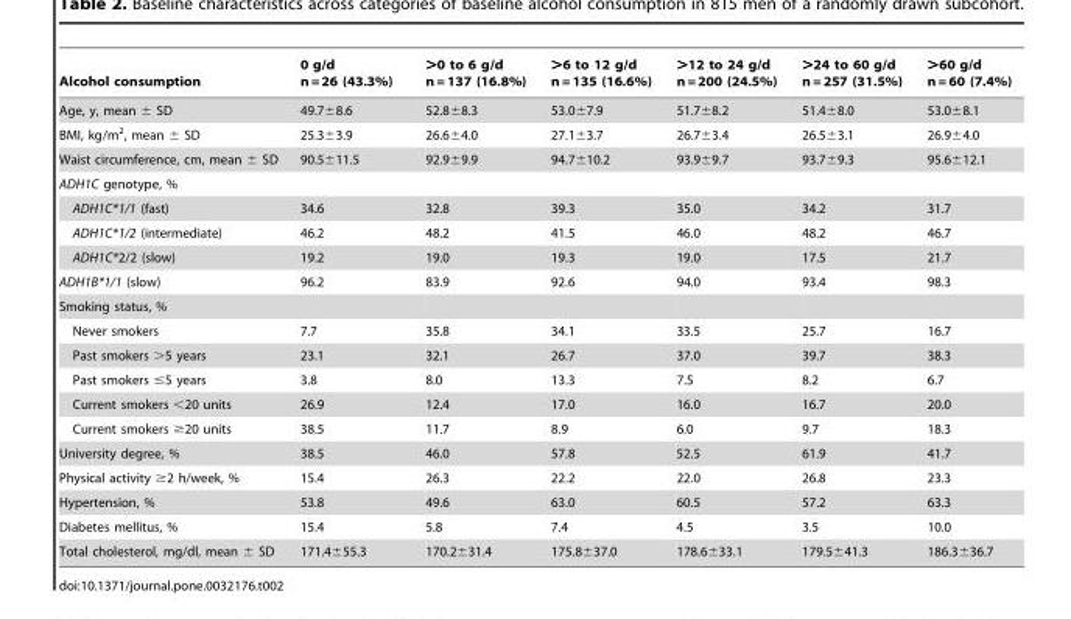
<table><thead><tr><td>Alcohol consumption</td><td>0 g/d n = 26 (43.3%)</td><td>&gt;0 to 6 g/d n = 137 (16.8%)</td><td>&gt;6 to 12 g/d n = 135 (16.6%)</td><td>&gt;12 to 24 g/d n = 200 (24.5%)</td><td>&gt;24 to 60 g/d n = 257 (31.5%)</td><td>&gt;60 g/d n = 60 (7.4%)</td></tr></thead><tbody><tr><td>Age, y, mean ± SD</td><td>49.7±8.6</td><td>52.8±8.3</td><td>53.0±7.9</td><td>51.7±8.2</td><td>51.4±8.0</td><td>53.0±8.1</td></tr><tr><td>BMI, kg/m<sup>2</sup>, mean ± SD</td><td>25.3±3.9</td><td>26.6±4.0</td><td>27.1±3.7</td><td>26.7±3.4</td><td>26.5±3.1</td><td>26.9±4.0</td></tr><tr><td>Waist circumference, cm, mean ± SD</td><td>90.5±11.5</td><td>92.9±9.9</td><td>94.7±10.2</td><td>93.9±9.7</td><td>93.7±9.3</td><td>95.6±12.1</td></tr><tr><td colspan="7">ADH1C genotype, %</td></tr><tr><td>ADH1C*1/1 (fast)</td><td>34.6</td><td>32.8</td><td>39.3</td><td>35.0</td><td>34.2</td><td>31.7</td></tr><tr><td>ADH1C*1/2 (intermediate)</td><td>46.2</td><td>48.2</td><td>41.5</td><td>46.0</td><td>48.2</td><td>46.7</td></tr><tr><td>ADH1C*2/2 (slow)</td><td>19.2</td><td>19.0</td><td>19.3</td><td>19.0</td><td>17.5</td><td>21.7</td></tr><tr><td>ADH1B*1/1 (slow)</td><td>96.2</td><td>83.9</td><td>92.6</td><td>94.0</td><td>93.4</td><td>98.3</td></tr><tr><td colspan="7">Smoking status, %</td></tr><tr><td>Never smokers</td><td>7.7</td><td>35.8</td><td>34.1</td><td>33.5</td><td>25.7</td><td>16.7</td></tr><tr><td>Past smokers &gt;5 years</td><td>23.1</td><td>32.1</td><td>26.7</td><td>37.0</td><td>39.7</td><td>38.3</td></tr><tr><td>Past smokers ≤5 years</td><td>3.8</td><td>8.0</td><td>13.3</td><td>7.5</td><td>8.2</td><td>6.7</td></tr><tr><td>Current smokers &lt;20 units</td><td>26.9</td><td>12.4</td><td>17.0</td><td>16.0</td><td>16.7</td><td>20.0</td></tr><tr><td>Current smokers ≥20 units</td><td>38.5</td><td>11.7</td><td>8.9</td><td>6.0</td><td>9.7</td><td>18.3</td></tr><tr><td>University degree, %</td><td>38.5</td><td>46.0</td><td>57.8</td><td>52.5</td><td>61.9</td><td>41.7</td></tr><tr><td>Physical activity ≥2 h/week, %</td><td>15.4</td><td>26.3</td><td>22.2</td><td>22.0</td><td>26.8</td><td>23.3</td></tr><tr><td>Hypertension, %</td><td>53.8</td><td>49.6</td><td>63.0</td><td>60.5</td><td>57.2</td><td>63.3</td></tr><tr><td>Diabetes mellitus, %</td><td>15.4</td><td>5.8</td><td>7.4</td><td>4.5</td><td>3.5</td><td>10.0</td></tr><tr><td>Total cholesterol, mg/dl, mean ± SD</td><td>171.4±55.3</td><td>170.2±31.4</td><td>175.8±37.0</td><td>178.6±33.1</td><td>179.5±41.3</td><td>186.3±36.7</td></tr></tbody></table>